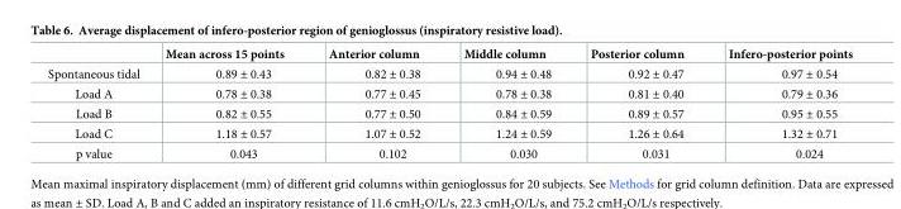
<table><thead><tr><td></td><td>Mean across 15 points</td><td>Anterior column</td><td>Middle column</td><td>Posterior column</td><td>Infero-posterior points</td></tr></thead><tbody><tr><td>Spontaneous tidal</td><td>0.89 ± 0.43</td><td>0.82 ± 0.38</td><td>0.94 ± 0.48</td><td>0.92 ± 0.47</td><td>0.97 ± 0.54</td></tr><tr><td>Load A</td><td>0.78 ± 0.38</td><td>0.77 ± 0.45</td><td>0.78 ± 0.38</td><td>0.81 ± 0.40</td><td>0.79 ± 0.36</td></tr><tr><td>Load B</td><td>0.82 ± 0.55</td><td>0.77 ± 0.50</td><td>0.84 ± 0.59</td><td>0.89 ± 0.57</td><td>0.95 ± 0.55</td></tr><tr><td>Load C</td><td>1.18 ± 0.57</td><td>1.07 ± 0.52</td><td>1.24 ± 0.59</td><td>1.26 ± 0.64</td><td>1.32 ± 0.71</td></tr><tr><td>p value</td><td>0.043</td><td>0.102</td><td>0.030</td><td>0.031</td><td>0.024</td></tr></tbody></table>